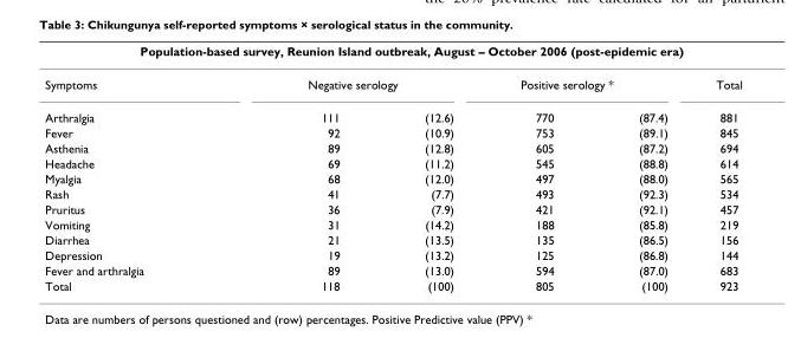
<table><thead><tr><td colspan="6">Population-based survey, Reunion Island outbreak, August – October 2006 (post-epidemic era)</td></tr><tr><td rowspan="2">Symptoms Arthralgia</td><td colspan="2">Negative serology</td><td colspan="2">Positive serology *</td><td rowspan="2">Total 881</td></tr><tr><td>111</td><td>(12.6)</td><td>770</td><td>(87.4)</td></tr></thead><tbody><tr><td>Fever</td><td>92</td><td>(10.9)</td><td>753</td><td>(89.1)</td><td>845</td></tr><tr><td>Asthenia</td><td>89</td><td>(12.8)</td><td>605</td><td>(87.2)</td><td>694</td></tr><tr><td>Headache</td><td>69</td><td>(11.2)</td><td>545</td><td>(88.8)</td><td>614</td></tr><tr><td>Myalgia</td><td>68</td><td>(12.0)</td><td>497</td><td>(88.0)</td><td>565</td></tr><tr><td>Rash</td><td>41</td><td>(7.7)</td><td>493</td><td>(92.3)</td><td>534</td></tr><tr><td>Pruritus</td><td>36</td><td>(7.9)</td><td>421</td><td>(92.1)</td><td>457</td></tr><tr><td>Vomiting</td><td>31</td><td>(14.2)</td><td>188</td><td>(85.8)</td><td>219</td></tr><tr><td>Diarrhea</td><td>21</td><td>(13.5)</td><td>135</td><td>(86.5)</td><td>156</td></tr><tr><td>Depression</td><td>19</td><td>(13.2)</td><td>125</td><td>(86.8)</td><td>144</td></tr><tr><td>Fever and arthralgia</td><td>89</td><td>(13.0)</td><td>594</td><td>(87.0)</td><td>683</td></tr><tr><td>Total</td><td>118</td><td>(100)</td><td>805</td><td>(100)</td><td>923</td></tr></tbody></table>